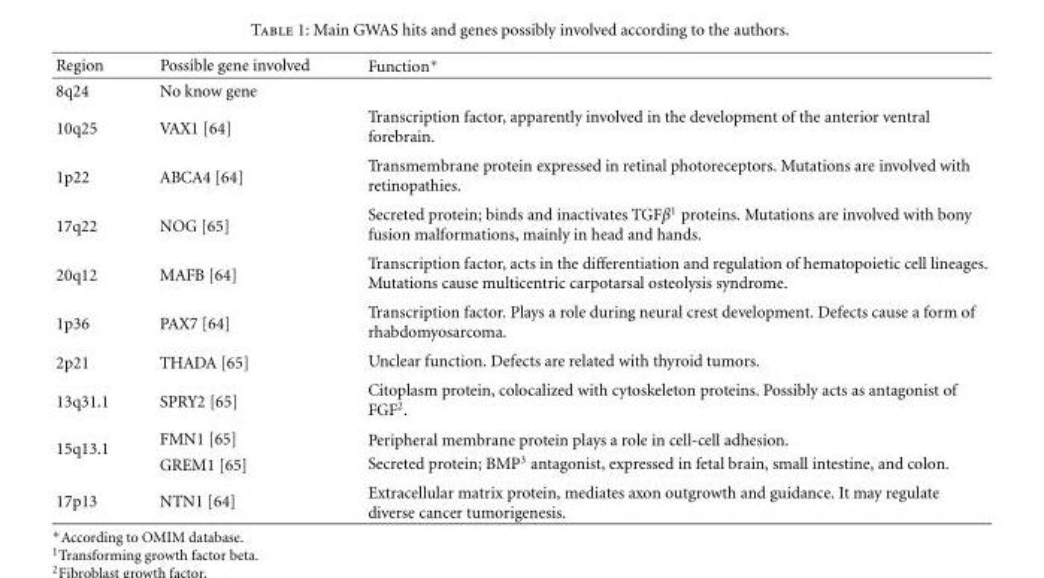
<table><thead><tr><td>Region</td><td>Possible gene involved</td><td>Function∗</td></tr></thead><tbody><tr><td>8q24</td><td>No know gene</td><td></td></tr><tr><td>10q25</td><td>VAX1 [64]</td><td>Transcription factor, apparently involved in the development of the anterior ventral forebrain.</td></tr><tr><td>1p22</td><td>ABCA4 [64]</td><td>Transmembrane protein expressed in retinal photoreceptors. Mutations are involved with retinopathies.</td></tr><tr><td>17q22</td><td>NOG [65]</td><td>Secreted protein; binds and inactivates TGFβ<sup>1</sup> proteins. Mutations are involved with bony fusion malformations, mainly in head and hands.</td></tr><tr><td>20q12</td><td>MAFB [64]</td><td>Transcription factor, acts in the differentiation and regulation of hematopoietic cell lineages. Mutations cause multicentric carpotarsal osteolysis syndrome.</td></tr><tr><td>1p36</td><td>PAX7 [64]</td><td>Transcription factor. Plays a role during neural crest development. Defects cause a form of rhabdomyosarcoma.</td></tr><tr><td>2p21</td><td>THADA [65]</td><td>Unclear function. Defects are related with thyroid tumors.</td></tr><tr><td>13q31.1</td><td>SPRY2 [65]</td><td>Citoplasm protein, colocalized with cytoskeleton proteins. Possibly acts as antagonist of FGF<sup>2</sup>.</td></tr><tr><td rowspan="2">15q13.1</td><td>FMN1 [65]</td><td>Peripheral membrane protein plays a role in cell-cell adhesion.</td></tr><tr><td>GREM1 [65]</td><td>Secreted protein; BMP<sup>3</sup> antagonist, expressed in fetal brain, small intestine, and colon.</td></tr><tr><td>17p13</td><td>NTN1 [64]</td><td>Extracellular matrix protein, mediates axon outgrowth and guidance. It may regulate diverse cancer tumorigenesis.</td></tr></tbody></table>